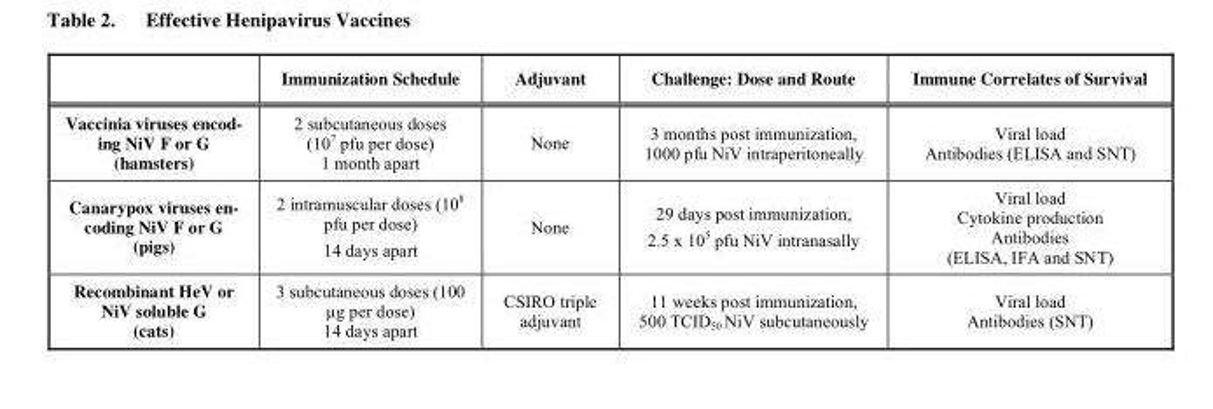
<table><thead><tr><td></td><td>Immunization Schedule</td><td>Adjuvant</td><td>Challenge: Dose and Route</td><td>Immune Correlates of Survival</td></tr></thead><tbody><tr><td>Vaccinia viruses encod- ing NiV F or G (hamsters)</td><td>2 subcutaneous doses (10<sup>7</sup> pfu per dose) 1 month apart</td><td>None</td><td>3 months post immunization, 1000 pfu NiV intraperitoneally</td><td>Viral load Antibodies (ELISA and SNT)</td></tr><tr><td>Canarypox viruses en- coding NiV F or G (pigs)</td><td>2 intramuscular doses (10<sup>8</sup> pfu per dose) 14 days apart</td><td>None</td><td>29 days post immunization, 2.5 x 10<sup>5</sup> pfu NiV intranasally</td><td>Viral load Cytokine production Antibodies (ELISA, IFA and SNT)</td></tr><tr><td>Recombinant HeV or NiV soluble G (cats)</td><td>3 subcutaneous doses (100 µg per dose) 14 days apart</td><td>CSIRO triple adjuvant</td><td>11 weeks post immunization, 500 TCID<sub>50</sub> NiV subcutaneously</td><td>Viral load Antibodies (SNT)</td></tr></tbody></table>